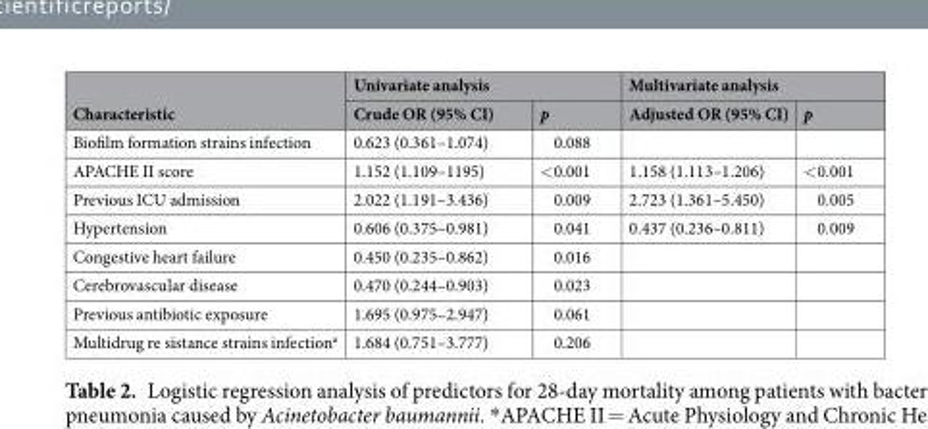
<table><thead><tr><td rowspan="2">Characteristic</td><td colspan="2">Univariate analysis</td><td colspan="2">Multivariate analysis</td></tr><tr><td>Crude OR (95% CI)</td><td>p</td><td>Adjusted OR (95% CI)</td><td>p</td></tr></thead><tbody><tr><td>Biofilm formation strains infection</td><td>0.623 (0.361–1.074)</td><td>0.088</td><td></td><td></td></tr><tr><td>APACHE II score</td><td>1.152 (1.109–1195)</td><td>&lt;0.001</td><td>1.158 (1.113–1.206)</td><td>&lt;0.001</td></tr><tr><td>Previous ICU admission</td><td>2.022 (1.191–3.436)</td><td>0.009</td><td>2.723 (1.361–5.450)</td><td>0.005</td></tr><tr><td>Hypertension</td><td>0.606 (0.375–0.981)</td><td>0.041</td><td>0.437 (0.236–0.811)</td><td>0.009</td></tr><tr><td>Congestive heart failure</td><td>0.450 (0.235–0.862)</td><td>0.016</td><td></td><td></td></tr><tr><td>Cerebrovascular disease</td><td>0.470 (0.244–0.903)</td><td>0.023</td><td></td><td></td></tr><tr><td>Previous antibiotic exposure</td><td>1.695 (0.975–2.947)</td><td>0.061</td><td></td><td></td></tr><tr><td>Multidrug re sistance strains infection<sup>a</sup></td><td>1.684 (0.751–3.777)</td><td>0.206</td><td></td><td></td></tr></tbody></table>